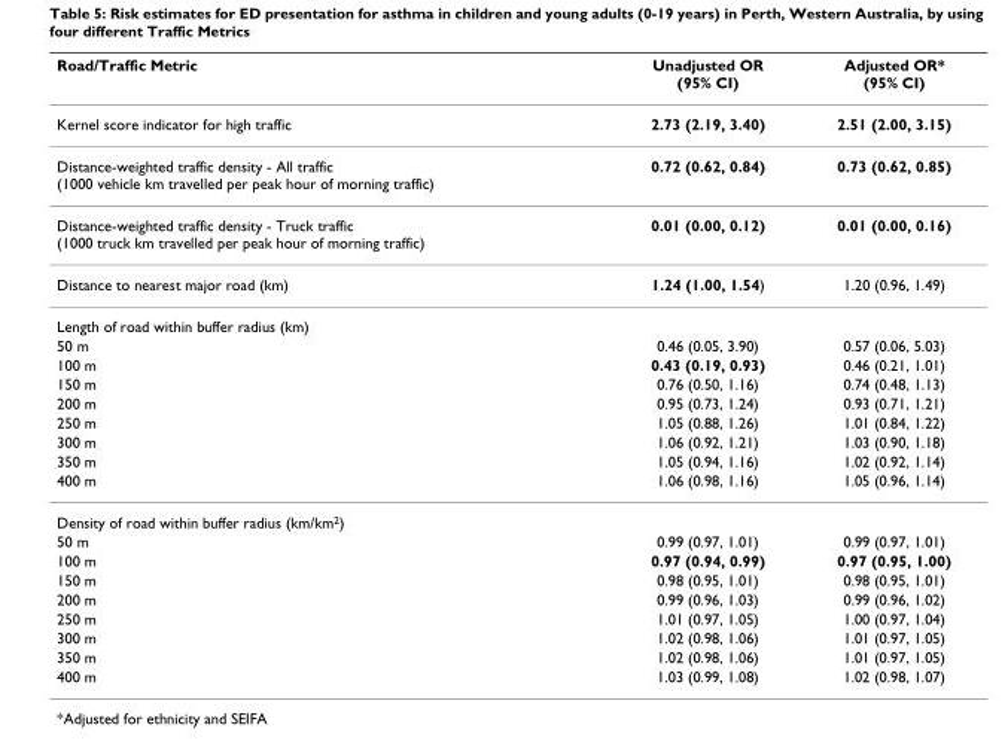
<table><thead><tr><td>Road/Traffic Metric</td><td>Unadjusted OR (95% CI)</td><td>Adjusted OR* (95% CI)</td></tr></thead><tbody><tr><td>Kernel score indicator for high traffic</td><td>2.73 (2.19, 3.40)</td><td>2.51 (2.00, 3.15)</td></tr><tr><td>Distance-weighted traffic density - All traffic (1000 vehicle km travelled per peak hour of morning traffic)</td><td>0.72 (0.62, 0.84)</td><td>0.73 (0.62, 0.85)</td></tr><tr><td>Distance-weighted traffic density - Truck traffic (1000 truck km travelled per peak hour of morning traffic)</td><td>0.01 (0.00, 0.12)</td><td>0.01 (0.00, 0.16)</td></tr><tr><td>Distance to nearest major road (km)</td><td>1.24 (1.00, 1.54)</td><td>1.20 (0.96, 1.49)</td></tr><tr><td colspan="3">Length of road within buffer radius (km)</td></tr><tr><td>50 m</td><td>0.46 (0.05, 3.90)</td><td>0.57 (0.06, 5.03)</td></tr><tr><td>100 m</td><td>0.43 (0.19, 0.93)</td><td>0.46 (0.21, 1.01)</td></tr><tr><td>150 m</td><td>0.76 (0.50, 1.16)</td><td>0.74 (0.48, 1.13)</td></tr><tr><td>200 m</td><td>0.95 (0.73, 1.24)</td><td>0.93 (0.71, 1.21)</td></tr><tr><td>250 m</td><td>1.05 (0.88, 1.26)</td><td>1.01 (0.84, 1.22)</td></tr><tr><td>300 m</td><td>1.06 (0.92, 1.21)</td><td>1.03 (0.90, 1.18)</td></tr><tr><td>350 m</td><td>1.05 (0.94, 1.16)</td><td>1.02 (0.92, 1.14)</td></tr><tr><td>400 m</td><td>1.06 (0.98, 1.16)</td><td>1.05 (0.96, 1.14)</td></tr><tr><td colspan="3">Density of road within buffer radius (km/km<sup>2</sup>)</td></tr><tr><td>50 m</td><td>0.99 (0.97, 1.01)</td><td>0.99 (0.97, 1.01)</td></tr><tr><td>100 m</td><td>0.97 (0.94, 0.99)</td><td>0.97 (0.95, 1.00)</td></tr><tr><td>150 m</td><td>0.98 (0.95, 1.01)</td><td>0.98 (0.95, 1.01)</td></tr><tr><td>200 m</td><td>0.99 (0.96, 1.03)</td><td>0.99 (0.96, 1.02)</td></tr><tr><td>250 m</td><td>1.01 (0.97, 1.05)</td><td>1.00 (0.97, 1.04)</td></tr><tr><td>300 m</td><td>1.02 (0.98, 1.06)</td><td>1.01 (0.97, 1.05)</td></tr><tr><td>350 m</td><td>1.02 (0.98, 1.06)</td><td>1.01 (0.97, 1.05)</td></tr><tr><td>400 m</td><td>1.03 (0.99, 1.08)</td><td>1.02 (0.98, 1.07)</td></tr></tbody></table>